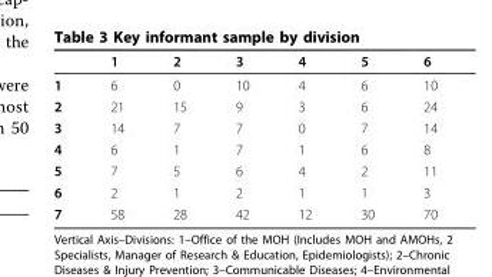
<table><thead><tr><td></td><td>1</td><td>2</td><td>3</td><td>4</td><td>5</td><td>6</td></tr></thead><tbody><tr><td>1</td><td>6</td><td>0</td><td>10</td><td>4</td><td>6</td><td>10</td></tr><tr><td>2</td><td>21</td><td>15</td><td>9</td><td>3</td><td>6</td><td>24</td></tr><tr><td>3</td><td>14</td><td>7</td><td>7</td><td>0</td><td>7</td><td>14</td></tr><tr><td>4</td><td>6</td><td>1</td><td>7</td><td>1</td><td>6</td><td>8</td></tr><tr><td>5</td><td>7</td><td>5</td><td>6</td><td>4</td><td>2</td><td>11</td></tr><tr><td>6</td><td>2</td><td>1</td><td>2</td><td>1</td><td>1</td><td>3</td></tr><tr><td>7</td><td>58</td><td>28</td><td>42</td><td>12</td><td>30</td><td>70</td></tr></tbody></table>